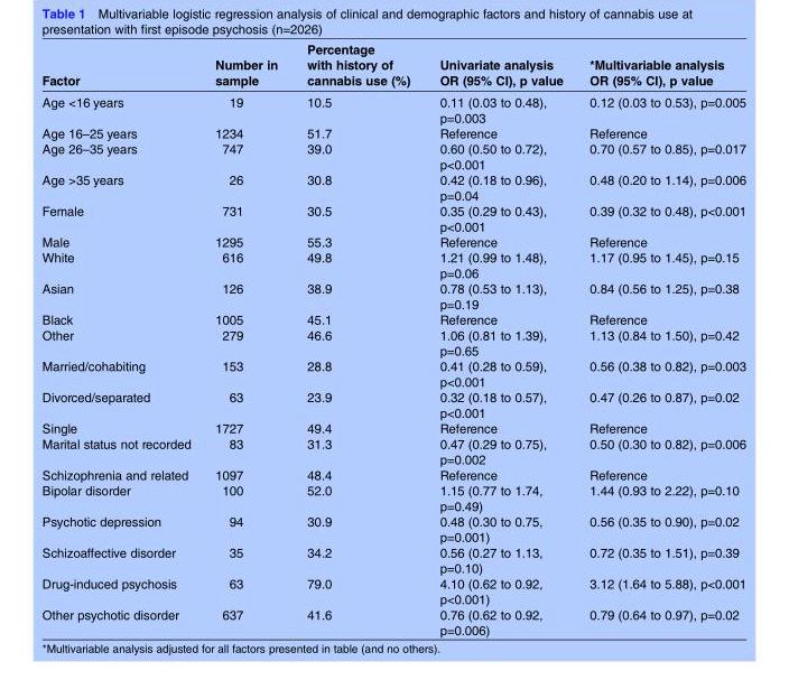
<table><thead><tr><td>Factor</td><td>Number in sample</td><td>Percentage with history of cannabis use (%)</td><td>Univariate analysis OR (95% CI), p value</td><td>*Multivariable analysis OR (95% CI), p value</td></tr></thead><tbody><tr><td>Age &lt;16 years</td><td>19</td><td>10.5</td><td>0.11 (0.03 to 0.48), p=0.003</td><td>0.12 (0.03 to 0.53), p=0.005</td></tr><tr><td>Age 16–25 years</td><td>1234</td><td>51.7</td><td>Reference</td><td>Reference</td></tr><tr><td>Age 26–35 years</td><td>747</td><td>39.0</td><td>0.60 (0.50 to 0.72), p&lt;0.001</td><td>0.70 (0.57 to 0.85), p=0.017</td></tr><tr><td>Age &gt;35 years</td><td>26</td><td>30.8</td><td>0.42 (0.18 to 0.96), p=0.04</td><td>0.48 (0.20 to 1.14), p=0.006</td></tr><tr><td>Female</td><td>731</td><td>30.5</td><td>0.35 (0.29 to 0.43), p&lt;0.001</td><td>0.39 (0.32 to 0.48), p&lt;0.001</td></tr><tr><td>Male</td><td>1295</td><td>55.3</td><td>Reference</td><td>Reference</td></tr><tr><td>White</td><td>616</td><td>49.8</td><td>1.21 (0.99 to 1.48), p=0.06</td><td>1.17 (0.95 to 1.45), p=0.15</td></tr><tr><td>Asian</td><td>126</td><td>38.9</td><td>0.78 (0.53 to 1.13), p=0.19</td><td>0.84 (0.56 to 1.25), p=0.38</td></tr><tr><td>Black</td><td>1005</td><td>45.1</td><td>Reference</td><td>Reference</td></tr><tr><td>Other</td><td>279</td><td>46.6</td><td>1.06 (0.81 to 1.39), p=0.65</td><td>1.13 (0.84 to 1.50), p=0.42</td></tr><tr><td>Married/cohabiting</td><td>153</td><td>28.8</td><td>0.41 (0.28 to 0.59), p&lt;0.001</td><td>0.56 (0.38 to 0.82), p=0.003</td></tr><tr><td>Divorced/separated</td><td>63</td><td>23.9</td><td>0.32 (0.18 to 0.57), p&lt;0.001</td><td>0.47 (0.26 to 0.87), p=0.02</td></tr><tr><td>Single</td><td>1727</td><td>49.4</td><td>Reference</td><td>Reference</td></tr><tr><td>Marital status not recorded</td><td>83</td><td>31.3</td><td>0.47 (0.29 to 0.75), p=0.002</td><td>0.50 (0.30 to 0.82), p=0.006</td></tr><tr><td>Schizophrenia and related</td><td>1097</td><td>48.4</td><td>Reference</td><td>Reference</td></tr><tr><td>Bipolar disorder</td><td>100</td><td>52.0</td><td>1.15 (0.77 to 1.74, p=0.49)</td><td>1.44 (0.93 to 2.22), p=0.10</td></tr><tr><td>Psychotic depression</td><td>94</td><td>30.9</td><td>0.48 (0.30 to 0.75, p=0.001)</td><td>0.56 (0.35 to 0.90), p=0.02</td></tr><tr><td>Schizoaffective disorder</td><td>35</td><td>34.2</td><td>0.56 (0.27 to 1.13, p=0.10)</td><td>0.72 (0.35 to 1.51), p=0.39</td></tr><tr><td>Drug-induced psychosis</td><td>63</td><td>79.0</td><td>4.10 (0.62 to 0.92, p&lt;0.001)</td><td>3.12 (1.64 to 5.88), p&lt;0.001</td></tr><tr><td>Other psychotic disorder</td><td>637</td><td>41.6</td><td>0.76 (0.62 to 0.92, p=0.006)</td><td>0.79 (0.64 to 0.97), p=0.02</td></tr></tbody></table>